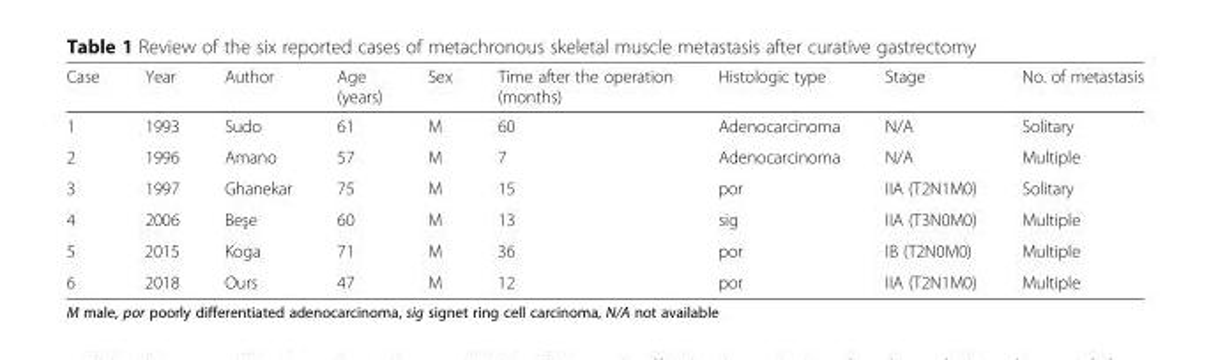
<table><thead><tr><td>Case</td><td>Year</td><td>Author</td><td>Age (years)</td><td>Sex</td><td>Time after the operation (months)</td><td>Histologic type</td><td>Stage</td><td>No. of metastasis</td></tr></thead><tbody><tr><td>1</td><td>1993</td><td>Sudo</td><td>61</td><td>M</td><td>60</td><td>Adenocarcinoma</td><td>N/A</td><td>Solitary</td></tr><tr><td>2</td><td>1996</td><td>Amano</td><td>57</td><td>M</td><td>7</td><td>Adenocarcinoma</td><td>N/A</td><td>Multiple</td></tr><tr><td>3</td><td>1997</td><td>Ghanekar</td><td>75</td><td>M</td><td>15</td><td>por</td><td>IIA (T2N1M0)</td><td>Solitary</td></tr><tr><td>4</td><td>2006</td><td>Beşe</td><td>60</td><td>M</td><td>13</td><td>sig</td><td>IIA (T3N0M0)</td><td>Multiple</td></tr><tr><td>5</td><td>2015</td><td>Koga</td><td>71</td><td>M</td><td>36</td><td>por</td><td>IB (T2N0M0)</td><td>Multiple</td></tr><tr><td>6</td><td>2018</td><td>Ours</td><td>47</td><td>M</td><td>12</td><td>por</td><td>IIA (T2N1M0)</td><td>Multiple</td></tr></tbody></table>